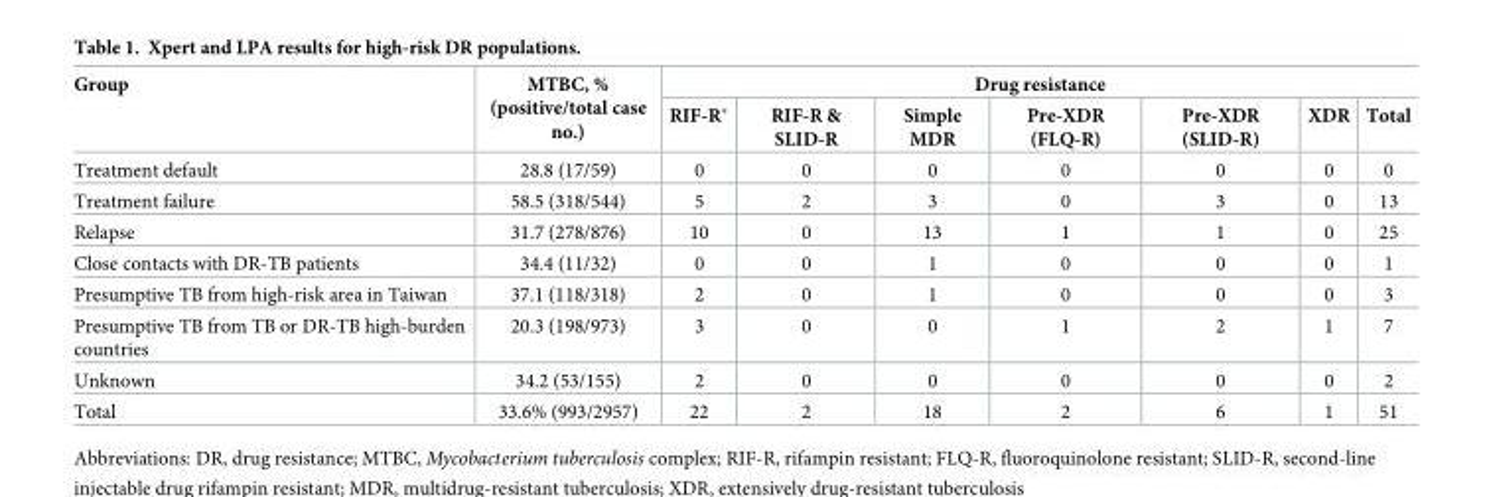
<table><thead><tr><td rowspan="2">Group</td><td rowspan="2">MTBC, % (positive/total case no.)</td><td colspan="7">Drug resistance</td></tr><tr><td>RIF-R*</td><td>RIF-R &amp; SLID-R</td><td>Simple MDR</td><td>Pre-XDR (FLQ-R)</td><td>Pre-XDR (SLID-R)</td><td>XDR</td><td>Total</td></tr></thead><tbody><tr><td>Treatment default</td><td>28.8 (17/59)</td><td>0</td><td>0</td><td>0</td><td>0</td><td>0</td><td>0</td><td>0</td></tr><tr><td>Treatment failure</td><td>58.5 (318/544)</td><td>5</td><td>2</td><td>3</td><td>0</td><td>3</td><td>0</td><td>13</td></tr><tr><td>Relapse</td><td>31.7 (278/876)</td><td>10</td><td>0</td><td>13</td><td>1</td><td>1</td><td>0</td><td>25</td></tr><tr><td>Close contacts with DR-TB patients</td><td>34.4 (11/32)</td><td>0</td><td>0</td><td>1</td><td>0</td><td>0</td><td>0</td><td>1</td></tr><tr><td>Presumptive TB from high-risk area in Taiwan</td><td>37.1 (118/318)</td><td>2</td><td>0</td><td>1</td><td>0</td><td>0</td><td>0</td><td>3</td></tr><tr><td>Presumptive TB from TB or DR-TB high-burden countries</td><td>20.3 (198/973)</td><td>3</td><td>0</td><td>0</td><td>1</td><td>2</td><td>1</td><td>7</td></tr><tr><td>Unknown</td><td>34.2 (53/155)</td><td>2</td><td>0</td><td>0</td><td>0</td><td>0</td><td>0</td><td>2</td></tr><tr><td>Total</td><td>33.6% (993/2957)</td><td>22</td><td>2</td><td>18</td><td>2</td><td>6</td><td>1</td><td>51</td></tr></tbody></table>